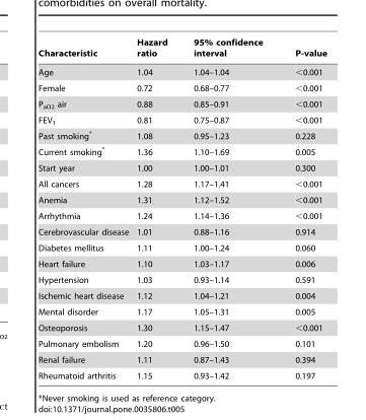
<table><thead><tr><td>Characteristic</td><td>Hazard ratio</td><td>95% confidence interval</td><td>P-value</td></tr></thead><tbody><tr><td>Age</td><td>1.04</td><td>1.04–1.04</td><td>&lt;0.001</td></tr><tr><td>Female</td><td>0.72</td><td>0.68–0.77</td><td>&lt;0.001</td></tr><tr><td>P<sub>aO2</sub> air</td><td>0.88</td><td>0.85–0.91</td><td>&lt;0.001</td></tr><tr><td>FEV<sub>1</sub></td><td>0.81</td><td>0.75–0.87</td><td>&lt;0.001</td></tr><tr><td>Past smoking*</td><td>1.08</td><td>0.95–1.23</td><td>0.228</td></tr><tr><td>Current smoking*</td><td>1.36</td><td>1.10–1.69</td><td>0.005</td></tr><tr><td>Start year</td><td>1.00</td><td>1.00–1.01</td><td>0.300</td></tr><tr><td>All cancers</td><td>1.28</td><td>1.17–1.41</td><td>&lt;0.001</td></tr><tr><td>Anemia</td><td>1.31</td><td>1.12–1.52</td><td>&lt;0.001</td></tr><tr><td>Arrhythmia</td><td>1.24</td><td>1.14–1.36</td><td>&lt;0.001</td></tr><tr><td>Cerebrovascular disease</td><td>1.01</td><td>0.88–1.16</td><td>0.914</td></tr><tr><td>Diabetes mellitus</td><td>1.11</td><td>1.00–1.24</td><td>0.060</td></tr><tr><td>Heart failure</td><td>1.10</td><td>1.03–1.17</td><td>0.006</td></tr><tr><td>Hypertension</td><td>1.03</td><td>0.93–1.14</td><td>0.591</td></tr><tr><td>Ischemic heart disease</td><td>1.12</td><td>1.04–1.21</td><td>0.004</td></tr><tr><td>Mental disorder</td><td>1.17</td><td>1.05–1.31</td><td>0.005</td></tr><tr><td>Osteoporosis</td><td>1.30</td><td>1.15–1.47</td><td>&lt;0.001</td></tr><tr><td>Pulmonary embolism</td><td>1.20</td><td>0.96–1.50</td><td>0.101</td></tr><tr><td>Renal failure</td><td>1.11</td><td>0.87–1.43</td><td>0.394</td></tr><tr><td>Rheumatoid arthritis</td><td>1.15</td><td>0.93–1.42</td><td>0.197</td></tr></tbody></table>